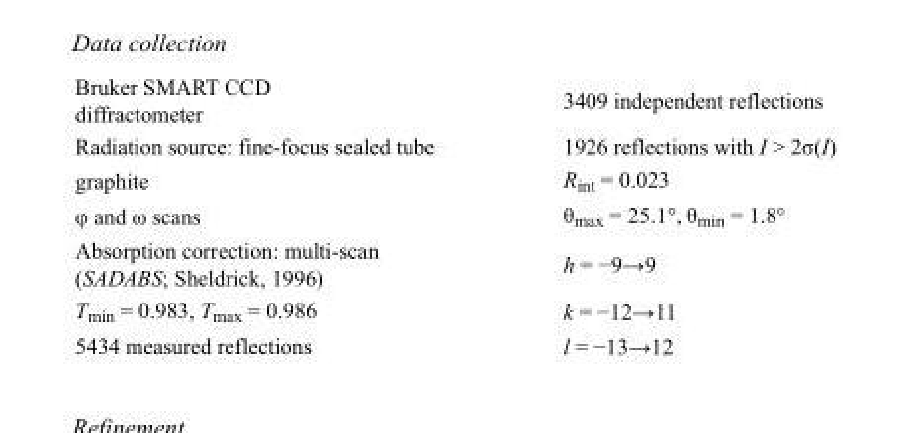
<table><tbody><tr><td>Bruker SMART CCD diffractometer</td><td>3409 independent reflections</td></tr><tr><td>Radiation source: fine-focus sealed tube</td><td>1926 reflections with I &gt; 2σ(I)</td></tr><tr><td>graphite</td><td>R<sub>int</sub> = 0.023</td></tr><tr><td>φ and ω scans</td><td>θ<sub>max</sub> = 25.1°, θ<sub>min</sub> = 1.8°</td></tr><tr><td>Absorption correction: multi-scan (SADABS; Sheldrick, 1996)</td><td>h = −9→9</td></tr><tr><td>T<sub>min</sub> = 0.983, T<sub>max</sub> = 0.986</td><td>k = −12→11</td></tr><tr><td>5434 measured reflections</td><td>l = −13→12</td></tr></tbody></table>